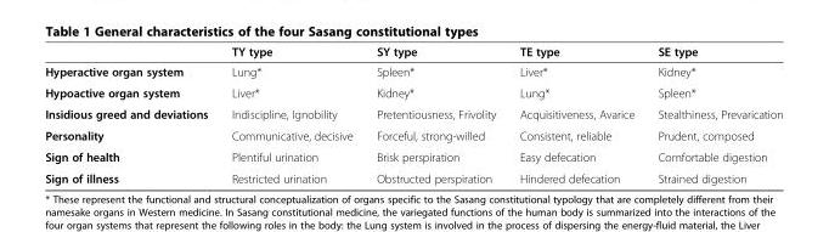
<table><thead><tr><td></td><td>TY type</td><td>SY type</td><td>TE type</td><td>SE type</td></tr></thead><tbody><tr><td>Hyperactive organ system</td><td>Lung*</td><td>Spleen*</td><td>Liver*</td><td>Kidney*</td></tr><tr><td>Hypoactive organ system</td><td>Liver*</td><td>Kidney*</td><td>Lung*</td><td>Spleen*</td></tr><tr><td>Insidious greed and deviations</td><td>Indiscipline, Ignobility</td><td>Pretentiousness, Frivolity</td><td>Acquisitiveness, Avarice</td><td>Stealthiness, Prevarication</td></tr><tr><td>Personality</td><td>Communicative, decisive</td><td>Forceful, strong-willed</td><td>Consistent, reliable</td><td>Prudent, composed</td></tr><tr><td>Sign of health</td><td>Plentiful urination</td><td>Brisk perspiration</td><td>Easy defecation</td><td>Comfortable digestion</td></tr><tr><td>Sign of illness</td><td>Restricted urination</td><td>Obstructed perspiration</td><td>Hindered defecation</td><td>Strained digestion</td></tr></tbody></table>